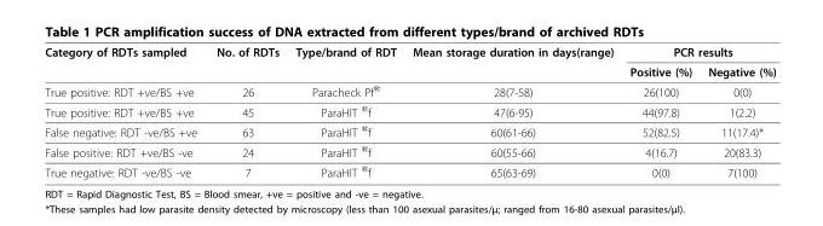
<table><thead><tr><td rowspan="2">Category of RDTs sampled</td><td rowspan="2">No. of RDTs</td><td rowspan="2">Type/brand of RDT</td><td rowspan="2">Mean storage duration in days(range)</td><td colspan="2">PCR results</td></tr><tr><td>Positive (%)</td><td>Negative (%)</td></tr></thead><tbody><tr><td>True positive: RDT +ve/BS +ve</td><td>26</td><td>Paracheck Pf<sup>®</sup></td><td>28(7-58)</td><td>26(100)</td><td>0(0)</td></tr><tr><td>True positive: RDT +ve/BS +ve</td><td>45</td><td>ParaHIT <sup>®</sup>f</td><td>47(6-95)</td><td>44(97.8)</td><td>1(2.2)</td></tr><tr><td>False negative: RDT -ve/BS +ve</td><td>63</td><td>ParaHIT <sup>®</sup>f</td><td>60(61-66)</td><td>52(82.5)</td><td>11(17.4)*</td></tr><tr><td>False positive: RDT +ve/BS -ve</td><td>24</td><td>ParaHIT <sup>®</sup>f</td><td>60(55-66)</td><td>4(16.7)</td><td>20(83.3)</td></tr><tr><td>True negative: RDT -ve/BS -ve</td><td>7</td><td>ParaHIT <sup>®</sup>f</td><td>65(63-69)</td><td>0(0)</td><td>7(100)</td></tr></tbody></table>